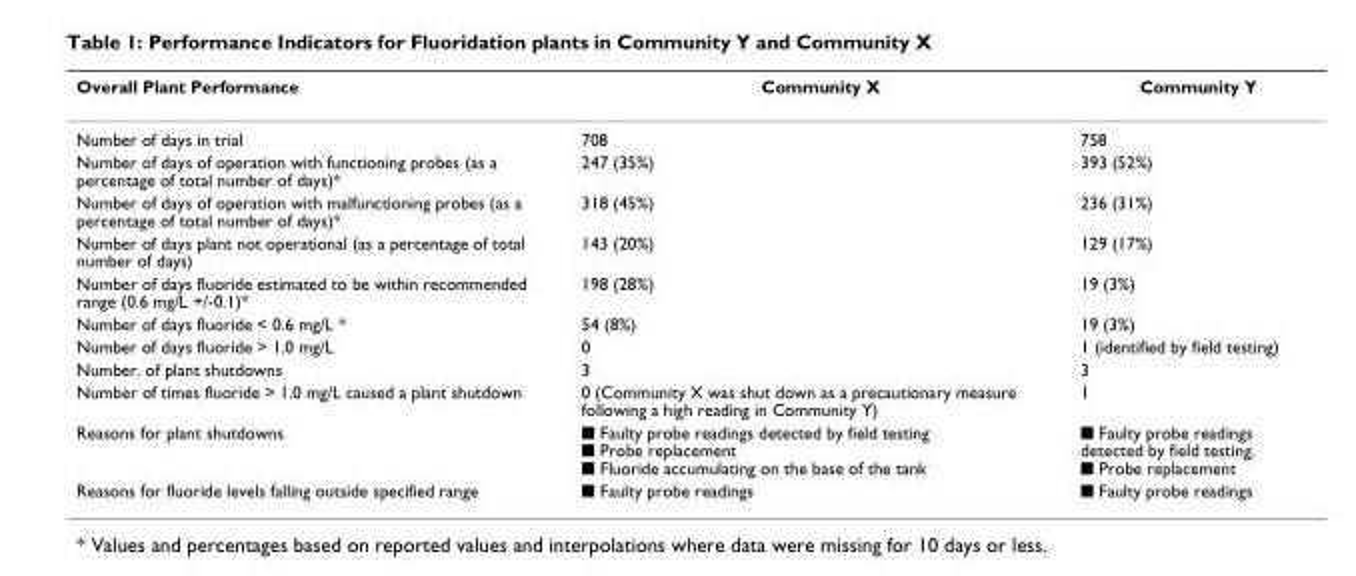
<table><thead><tr><td>Overall Plant Performance</td><td>Community X</td><td>Community Y</td></tr></thead><tbody><tr><td>Number of days in trial</td><td>708</td><td>758</td></tr><tr><td>Number of days of operation with functioning probes (as a percentage of total number of days)*</td><td>247 (35%)</td><td>393 (52%)</td></tr><tr><td>Number of days of operation with malfunctioning probes (as a percentage of total number of days)*</td><td>318 (45%)</td><td>236 (31%)</td></tr><tr><td>Number of days plant not operational (as a percentage of total number of days)</td><td>143 (20%)</td><td>129 (17%)</td></tr><tr><td>Number of days fluoride estimated to be within recommended range (0.6 mg/L +/-0.1)*</td><td>198 (28%)</td><td>19 (3%)</td></tr><tr><td>Number of days fluoride &lt; 0.6 mg/L *</td><td>54 (8%)</td><td>19 (3%)</td></tr><tr><td>Number of days fluoride &gt; 1.0 mg/L</td><td>0</td><td>1 (identified by field testing)</td></tr><tr><td>Number. of plant shutdowns</td><td>3</td><td>3</td></tr><tr><td>Number of times fluoride &gt; 1.0 mg/L caused a plant shutdown</td><td>0 (Community X was shut down as a precautionary measure following a high reading in Community Y)</td><td>1</td></tr><tr><td>Reasons for plant shutdowns</td><td>■ Faulty probe readings detected by field testing ■ Probe replacement ■ Fluoride accumulating on the base of the tank</td><td>■ Faulty probe readings detected by field testing. ■ Probe replacement</td></tr><tr><td>Reasons for fluoride levels falling outside specified range</td><td>■ Faulty probe readings</td><td>■ Faulty probe readings</td></tr></tbody></table>